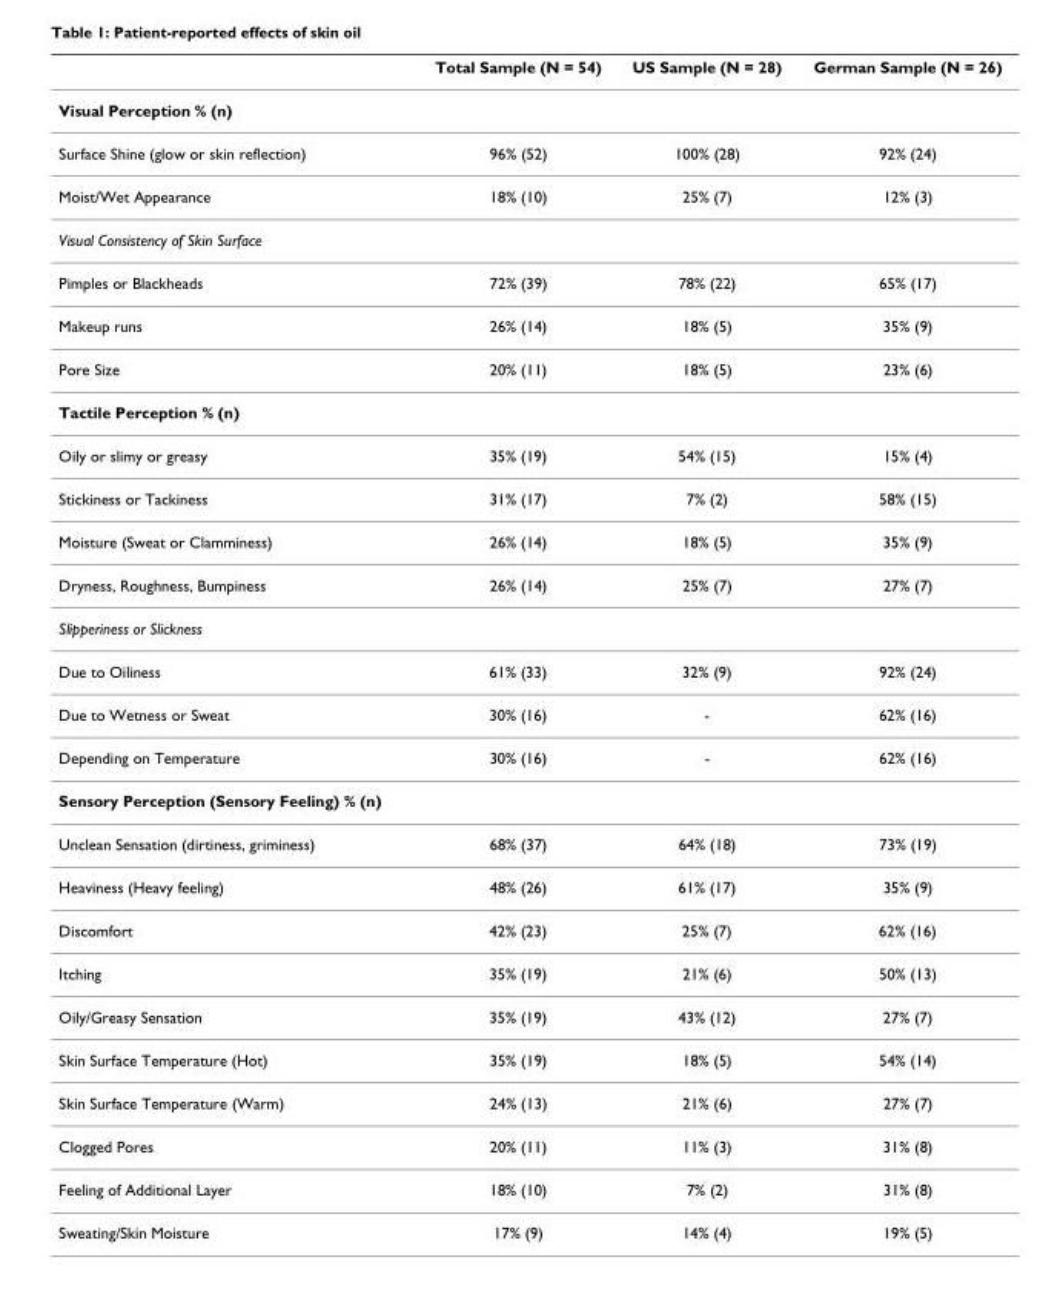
<table><thead><tr><td></td><td>Total Sample (N = 54)</td><td>US Sample (N = 28)</td><td>German Sample (N = 26)</td></tr></thead><tbody><tr><td colspan="4">Visual Perception % (n)</td></tr><tr><td>Surface Shine (glow or skin reflection)</td><td>96% (52)</td><td>100% (28)</td><td>92% (24)</td></tr><tr><td>Moist/Wet Appearance</td><td>18% (10)</td><td>25% (7)</td><td>12% (3)</td></tr><tr><td colspan="4">Visual Consistency of Skin Surface</td></tr><tr><td>Pimples or Blackheads</td><td>72% (39)</td><td>78% (22)</td><td>65% (17)</td></tr><tr><td>Makeup runs</td><td>26% (14)</td><td>18% (5)</td><td>35% (9)</td></tr><tr><td>Pore Size</td><td>20% (11)</td><td>18% (5)</td><td>23% (6)</td></tr><tr><td colspan="4">Tactile Perception % (n)</td></tr><tr><td>Oily or slimy or greasy</td><td>35% (19)</td><td>54% (15)</td><td>15% (4)</td></tr><tr><td>Stickiness or Tackiness</td><td>31% (17)</td><td>7% (2)</td><td>58% (15)</td></tr><tr><td>Moisture (Sweat or Clamminess)</td><td>26% (14)</td><td>18% (5)</td><td>35% (9)</td></tr><tr><td>Dryness, Roughness, Bumpiness</td><td>26% (14)</td><td>25% (7)</td><td>27% (7)</td></tr><tr><td colspan="4">Slipperiness or Slickness</td></tr><tr><td>Due to Oiliness</td><td>61% (33)</td><td>32% (9)</td><td>92% (24)</td></tr><tr><td>Due to Wetness or Sweat</td><td>30% (16)</td><td>-</td><td>62% (16)</td></tr><tr><td>Depending on Temperature</td><td>30% (16)</td><td>-</td><td>62% (16)</td></tr><tr><td colspan="4">Sensory Perception (Sensory Feeling) % (n)</td></tr><tr><td>Unclean Sensation (dirtiness, griminess)</td><td>68% (37)</td><td>64% (18)</td><td>73% (19)</td></tr><tr><td>Heaviness (Heavy feeling)</td><td>48% (26)</td><td>61% (17)</td><td>35% (9)</td></tr><tr><td>Discomfort</td><td>42% (23)</td><td>25% (7)</td><td>62% (16)</td></tr><tr><td>Itching</td><td>35% (19)</td><td>21% (6)</td><td>50% (13)</td></tr><tr><td>Oily/Greasy Sensation</td><td>35% (19)</td><td>43% (12)</td><td>27% (7)</td></tr><tr><td>Skin Surface Temperature (Hot)</td><td>35% (19)</td><td>18% (5)</td><td>54% (14)</td></tr><tr><td>Skin Surface Temperature (Warm)</td><td>24% (13)</td><td>21% (6)</td><td>27% (7)</td></tr><tr><td>Clogged Pores</td><td>20% (11)</td><td>11% (3)</td><td>31% (8)</td></tr><tr><td>Feeling of Additional Layer</td><td>18% (10)</td><td>7% (2)</td><td>31% (8)</td></tr><tr><td>Sweating/Skin Moisture</td><td>17% (9)</td><td>14% (4)</td><td>19% (5)</td></tr></tbody></table>